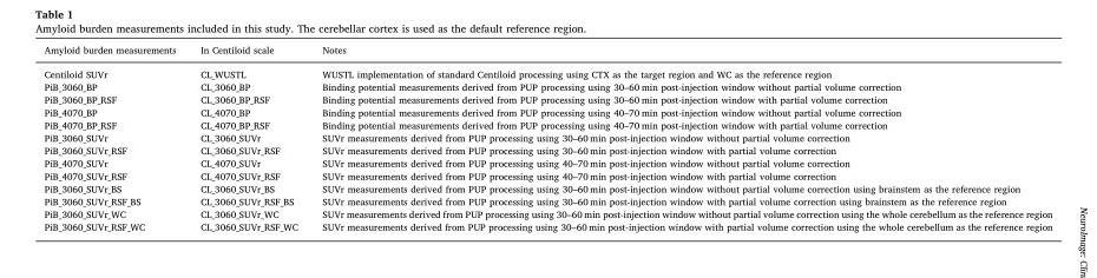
<table><thead><tr><td>Amyloid burden measurements</td><td>In Centiloid scale</td><td>Notes</td></tr></thead><tbody><tr><td>Centiloid SUVr</td><td>CL_WUSTL</td><td>WUSTL implementation of standard Centiloid processing using CTX as the target region and WC as the reference region</td></tr><tr><td>PiB_3060_BP</td><td>CL_3060_BP</td><td>Binding potential measurements derived from PUP processing using 30–60 min post-injection window without partial volume correction</td></tr><tr><td>PiB_3060_BP_RSF</td><td>CL_3060_BP_RSF</td><td>Binding potential measurements derived from PUP processing using 30–60 min post-injection window with partial volume correction</td></tr><tr><td>PiB_4070_BP</td><td>CL_4070_BP</td><td>Binding potential measurements derived from PUP processing using 40–70 min post-injection window without partial volume correction</td></tr><tr><td>PiB_4070_BP_RSF</td><td>CL_4070_BP_RSF</td><td>Binding potential measurements derived from PUP processing using 40–70 min post-injection window with partial volume correction</td></tr><tr><td>PiB_3060_SUVr</td><td>CL_3060_SUVr</td><td>SUVr measurements derived from PUP processing using 30–60 min post-injection window without partial volume correction</td></tr><tr><td>PiB_3060_SUVr_RSF</td><td>CL_3060_SUVr_RSF</td><td>SUVr measurements derived from PUP processing using 30–60 min post-injection window with partial volume correction</td></tr><tr><td>PiB_4070_SUVr</td><td>CL_4070_SUVr</td><td>SUVr measurements derived from PUP processing using 40–70 min post-injection window without partial volume correction</td></tr><tr><td>PiB_4070_SUVr_RSF</td><td>CL_4070_SUVr_RSF</td><td>SUVr measurements derived from PUP processing using 40–70 min post-injection window with partial volume correction</td></tr><tr><td>PiB_3060_SUVr_BS</td><td>CL_3060_SUVr_BS</td><td>SUVr measurements derived from PUP processing using 30–60 min post-injection window without partial volume correction using brainstem as the reference region</td></tr><tr><td>PiB_3060_SUVr_RSF_BS</td><td>CL_3060_SUVr_RSF_BS</td><td>SUVr measurements derived from PUP processing using 30–60 min post-injection window with partial volume correction using brainstem as the reference region</td></tr><tr><td>PiB_3060_SUVr_WC</td><td>CL_3060_SUVr_WC</td><td>SUVr measurements derived from PUP processing using 30–60 min post-injection window without partial volume correction using the whole cerebellum as the reference region</td></tr><tr><td>PiB_3060_SUVr_RSF_WC</td><td>CL_3060_SUVr_RSF_WC</td><td>SUVr measurements derived from PUP processing using 30–60 min post-injection window with partial volume correction using the whole cerebellum as the reference region</td></tr></tbody></table>